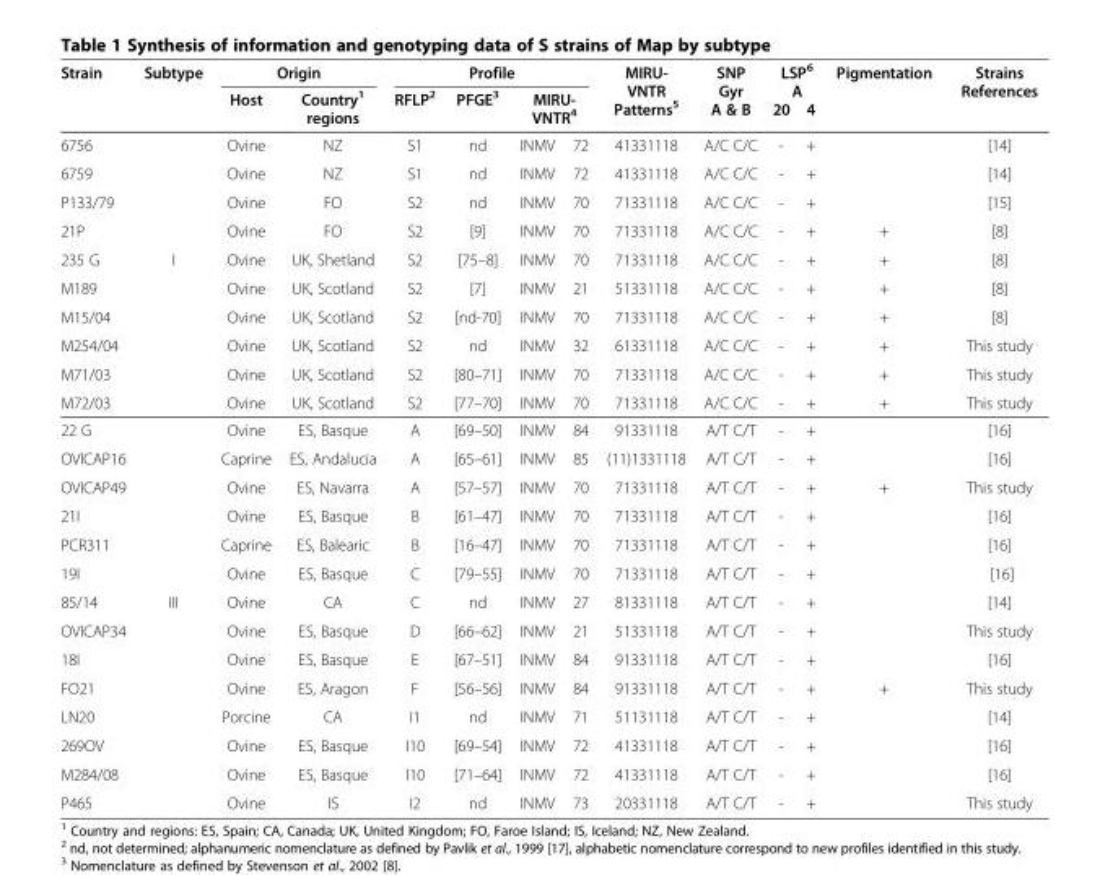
<table><thead><tr><td rowspan="3">Strain 6756</td><td rowspan="3">Subtype</td><td colspan="2">Origin</td><td colspan="4">Profile</td><td rowspan="3">MIRU- VNTR Patterns<sup>5</sup> 41331118</td><td rowspan="3">SNP Gyr A &amp; B A/C C/C</td><td rowspan="2" colspan="2">LSP<sup>6</sup> A 20 4</td><td rowspan="3">Pigmentation</td><td rowspan="3">Strains References [14]</td></tr><tr><td rowspan="2">Host Ovine</td><td rowspan="2">Country<sup>1</sup> regions NZ</td><td rowspan="2">RFLP<sup>2</sup> S1</td><td rowspan="2">PFGE<sup>3</sup> nd</td><td colspan="2">MIRU- VNTR<sup>4</sup></td></tr><tr><td>INMV</td><td>72</td><td>-</td><td>+</td></tr></thead><tbody><tr><td>6759</td><td></td><td>Ovine</td><td>NZ</td><td>S1</td><td>nd</td><td>INMV</td><td>72</td><td>41331118</td><td>A/C C/C</td><td>-</td><td>+</td><td></td><td>[14]</td></tr><tr><td>P133/79</td><td></td><td>Ovine</td><td>FO</td><td>S2</td><td>nd</td><td>INMV</td><td>70</td><td>71331118</td><td>A/C C/C</td><td>-</td><td>+</td><td></td><td>[15]</td></tr><tr><td>21P</td><td></td><td>Ovine</td><td>FO</td><td>S2</td><td>[9]</td><td>INMV</td><td>70</td><td>71331118</td><td>A/C C/C</td><td>-</td><td>+</td><td>+</td><td>[8]</td></tr><tr><td>235 G</td><td>I</td><td>Ovine</td><td>UK, Shetland</td><td>S2</td><td>[75–8]</td><td>INMV</td><td>70</td><td>71331118</td><td>A/C C/C</td><td>-</td><td>+</td><td>+</td><td>[8]</td></tr><tr><td>M189</td><td></td><td>Ovine</td><td>UK, Scotland</td><td>S2</td><td>[7]</td><td>INMV</td><td>21</td><td>51331118</td><td>A/C C/C</td><td>-</td><td>+</td><td>+</td><td>[8]</td></tr><tr><td>M15/04</td><td></td><td>Ovine</td><td>UK, Scotland</td><td>S2</td><td>[nd-70]</td><td>INMV</td><td>70</td><td>71331118</td><td>A/C C/C</td><td>-</td><td>+</td><td>+</td><td>[8]</td></tr><tr><td>M254/04</td><td></td><td>Ovine</td><td>UK, Scotland</td><td>S2</td><td>nd</td><td>INMV</td><td>32</td><td>61331118</td><td>A/C C/C</td><td>-</td><td>+</td><td>+</td><td>This study</td></tr><tr><td>M71/03</td><td></td><td>Ovine</td><td>UK, Scotland</td><td>S2</td><td>[80–71]</td><td>INMV</td><td>70</td><td>71331118</td><td>A/C C/C</td><td>-</td><td>+</td><td>+</td><td>This study</td></tr><tr><td>M72/03</td><td></td><td>Ovine</td><td>UK, Scotland</td><td>S2</td><td>[77–70]</td><td>INMV</td><td>70</td><td>71331118</td><td>A/C C/C</td><td>-</td><td>+</td><td>+</td><td>This study</td></tr><tr><td>22 G</td><td></td><td>Ovine</td><td>ES, Basque</td><td>A</td><td>[69–50]</td><td>INMV</td><td>84</td><td>91331118</td><td>A/T C/T</td><td>-</td><td>+</td><td></td><td>[16]</td></tr><tr><td>OVICAP16</td><td></td><td>Caprine</td><td>ES, Andalucia</td><td>A</td><td>[65–61]</td><td>INMV</td><td>85</td><td>(11)1331118</td><td>A/T C/T</td><td>-</td><td>+</td><td></td><td>[16]</td></tr><tr><td>OVICAP49</td><td></td><td>Ovine</td><td>ES, Navarra</td><td>A</td><td>[57–57]</td><td>INMV</td><td>70</td><td>71331118</td><td>A/T C/T</td><td>-</td><td>+</td><td>+</td><td>This study</td></tr><tr><td>21I</td><td></td><td>Ovine</td><td>ES, Basque</td><td>B</td><td>[61–47]</td><td>INMV</td><td>70</td><td>71331118</td><td>A/T C/T</td><td>-</td><td>+</td><td></td><td>[16]</td></tr><tr><td>PCR311</td><td></td><td>Caprine</td><td>ES, Balearic</td><td>B</td><td>[16–47]</td><td>INMV</td><td>70</td><td>71331118</td><td>A/T C/T</td><td>-</td><td>+</td><td></td><td>[16]</td></tr><tr><td>19I</td><td></td><td>Ovine</td><td>ES, Basque</td><td>C</td><td>[79–55]</td><td>INMV</td><td>70</td><td>71331118</td><td>A/T C/T</td><td>-</td><td>+</td><td></td><td>[16]</td></tr><tr><td>85/14</td><td>III</td><td>Ovine</td><td>CA</td><td>C</td><td>nd</td><td>INMV</td><td>27</td><td>81331118</td><td>A/T C/T</td><td>-</td><td>+</td><td></td><td>[14]</td></tr><tr><td>OVICAP34</td><td></td><td>Ovine</td><td>ES, Basque</td><td>D</td><td>[66–62]</td><td>INMV</td><td>21</td><td>51331118</td><td>A/T C/T</td><td>-</td><td>+</td><td></td><td>This study</td></tr><tr><td>18I</td><td></td><td>Ovine</td><td>ES, Basque</td><td>E</td><td>[67–51]</td><td>INMV</td><td>84</td><td>91331118</td><td>A/T C/T</td><td>-</td><td>+</td><td></td><td>[16]</td></tr><tr><td>FO21</td><td></td><td>Ovine</td><td>ES, Aragon</td><td>F</td><td>[56–56]</td><td>INMV</td><td>84</td><td>91331118</td><td>A/T C/T</td><td>-</td><td>+</td><td>+</td><td>This study</td></tr><tr><td>LN20</td><td></td><td>Porcine</td><td>CA</td><td>I1</td><td>nd</td><td>INMV</td><td>71</td><td>51131118</td><td>A/T C/T</td><td>-</td><td>+</td><td></td><td>[14]</td></tr><tr><td>269OV</td><td></td><td>Ovine</td><td>ES, Basque</td><td>I10</td><td>[69–54]</td><td>INMV</td><td>72</td><td>41331118</td><td>A/T C/T</td><td>-</td><td>+</td><td></td><td>[16]</td></tr><tr><td>M284/08</td><td></td><td>Ovine</td><td>ES, Basque</td><td>I10</td><td>[71–64]</td><td>INMV</td><td>72</td><td>41331118</td><td>A/T C/T</td><td>-</td><td>+</td><td></td><td>[16]</td></tr><tr><td>P465</td><td></td><td>Ovine</td><td>IS</td><td>I2</td><td>nd</td><td>INMV</td><td>73</td><td>20331118</td><td>A/T C/T</td><td>-</td><td>+</td><td></td><td>This study</td></tr></tbody></table>